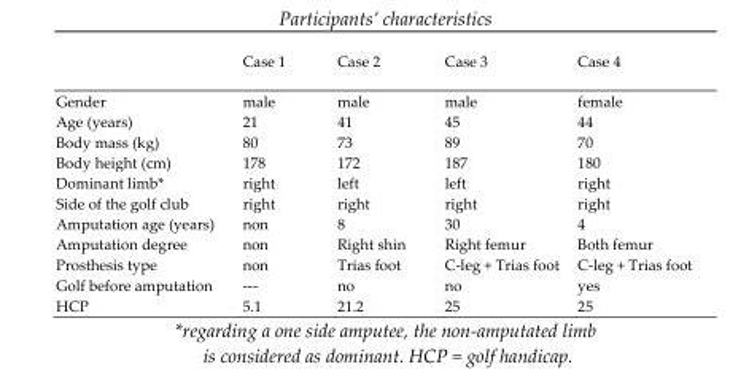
<table><thead><tr><td></td><td>Case 1</td><td>Case 2</td><td>Case 3</td><td>Case 4</td></tr></thead><tbody><tr><td>Gender</td><td>male</td><td>male</td><td>male</td><td>female</td></tr><tr><td>Age (years)</td><td>21</td><td>41</td><td>45</td><td>44</td></tr><tr><td>Body mass (kg)</td><td>80</td><td>73</td><td>89</td><td>70</td></tr><tr><td>Body height (cm)</td><td>178</td><td>172</td><td>187</td><td>180</td></tr><tr><td>Dominant limb*</td><td>right</td><td>left</td><td>left</td><td>right</td></tr><tr><td>Side of the golf club</td><td>right</td><td>right</td><td>right</td><td>right</td></tr><tr><td>Amputation age (years)</td><td>non</td><td>8</td><td>30</td><td>4</td></tr><tr><td>Amputation degree</td><td>non</td><td>Right shin</td><td>Right femur</td><td>Both femur</td></tr><tr><td>Prosthesis type</td><td>non</td><td>Trias foot</td><td>C-leg + Trias foot</td><td>C-leg + Trias foot</td></tr><tr><td>Golf before amputation</td><td>---</td><td>no</td><td>no</td><td>yes</td></tr><tr><td>HCP</td><td>5.1</td><td>21.2</td><td>25</td><td>25</td></tr></tbody></table>